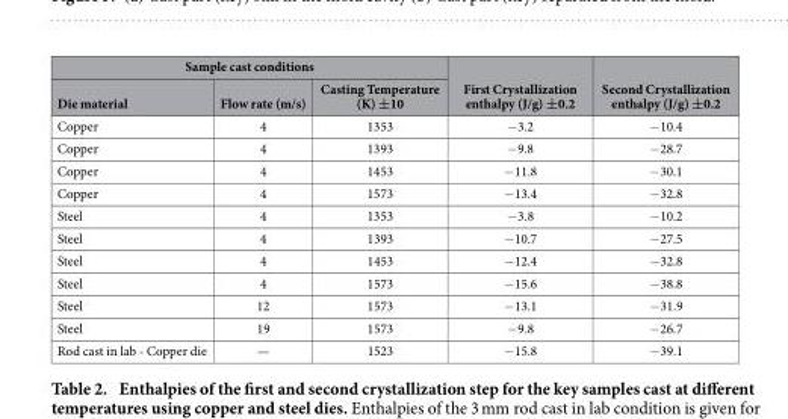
<table><thead><tr><td colspan="3">Sample cast conditions</td><td rowspan="2">First Crystallization enthalpy (J/g) ±0.2</td><td rowspan="2">Second Crystallization enthalpy (J/g) ±0.2</td></tr><tr><td>Die material</td><td>Flow rate (m/s)</td><td>Casting Temperature (K) ±10</td></tr></thead><tbody><tr><td>Copper</td><td>4</td><td>1353</td><td>− 3.2</td><td>− 10.4</td></tr><tr><td>Copper</td><td>4</td><td>1393</td><td>− 9.8</td><td>− 28.7</td></tr><tr><td>Copper</td><td>4</td><td>1453</td><td>− 11.8</td><td>− 30.1</td></tr><tr><td>Copper</td><td>4</td><td>1573</td><td>− 13.4</td><td>− 32.8</td></tr><tr><td>Steel</td><td>4</td><td>1353</td><td>− 3.8</td><td>− 10.2</td></tr><tr><td>Steel</td><td>4</td><td>1393</td><td>− 10.7</td><td>− 27.5</td></tr><tr><td>Steel</td><td>4</td><td>1453</td><td>− 12.4</td><td>− 32.8</td></tr><tr><td>Steel</td><td>4</td><td>1573</td><td>− 15.6</td><td>− 38.8</td></tr><tr><td>Steel</td><td>12</td><td>1573</td><td>− 13.1</td><td>− 31.9</td></tr><tr><td>Steel</td><td>19</td><td>1573</td><td>− 9.8</td><td>− 26.7</td></tr><tr><td>Rod cast in lab - Copper die</td><td>—</td><td>1523</td><td>− 15.8</td><td>− 39.1</td></tr></tbody></table>